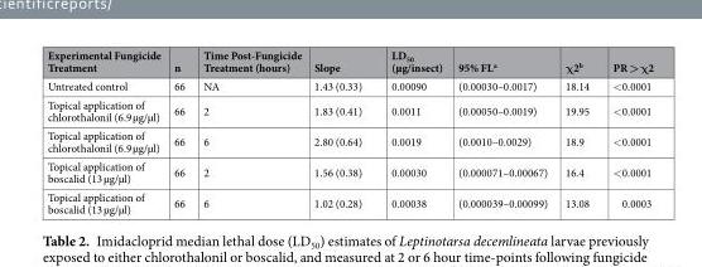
<table><thead><tr><td>Experimental Fungicide Treatment</td><td>n</td><td>Time Post-Fungicide Treatment (hours)</td><td>Slope</td><td>LD<sub>50</sub> (µg/insect)</td><td>95% FL<sup>a</sup></td><td>χ2<sup>b</sup></td><td>PR &gt; χ2</td></tr></thead><tbody><tr><td>Untreated control</td><td>66</td><td>NA</td><td>1.43 (0.33)</td><td>0.00090</td><td>(0.00030–0.0017)</td><td>18.14</td><td>&lt;0.0001</td></tr><tr><td>Topical application of chlorothalonil (6.9 µg/µl)</td><td>66</td><td>2</td><td>1.83 (0.41)</td><td>0.0011</td><td>(0.00050–0.0019)</td><td>19.95</td><td>&lt;0.0001</td></tr><tr><td>Topical application of chlorothalonil (6.9 µg/µl)</td><td>66</td><td>6</td><td>2.80 (0.64)</td><td>0.0019</td><td>(0.0010–0.0029)</td><td>18.9</td><td>&lt;0.0001</td></tr><tr><td>Topical application of boscalid (13 µg/µl)</td><td>66</td><td>2</td><td>1.56 (0.38)</td><td>0.00030</td><td>(0.000071–0.00067)</td><td>16.4</td><td>&lt;0.0001</td></tr><tr><td>Topical application of boscalid (13 µg/µl)</td><td>66</td><td>6</td><td>1.02 (0.28)</td><td>0.00038</td><td>(0.000039–0.00099)</td><td>13.08</td><td>0.0003</td></tr></tbody></table>